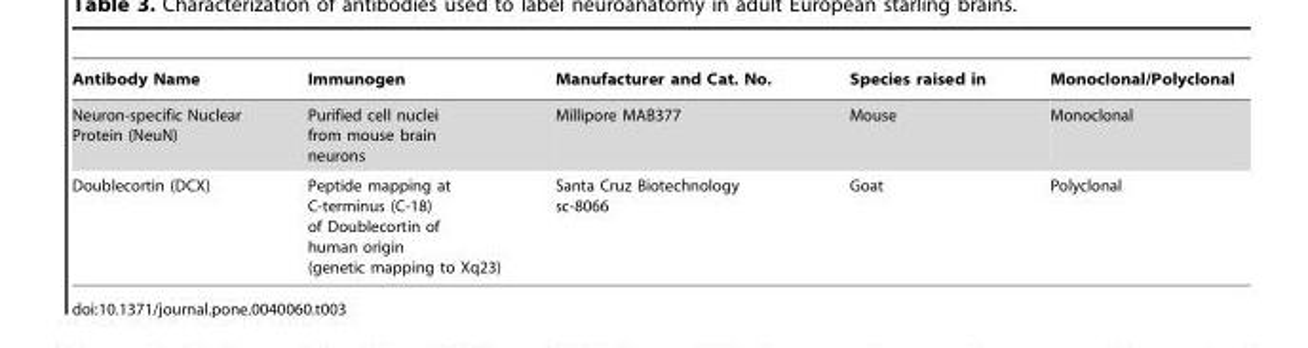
<table><thead><tr><td>Antibody Name</td><td>Immunogen</td><td>Manufacturer and Cat. No.</td><td>Species raised in</td><td>Monoclonal/Polyclonal</td></tr></thead><tbody><tr><td>Neuron-specific Nuclear Protein (NeuN)</td><td>Purified cell nuclei from mouse brain neurons</td><td>Millipore MAB377</td><td>Mouse</td><td>Monoclonal</td></tr><tr><td>Doublecortin (DCX)</td><td>Peptide mapping at C-terminus (C-18) of Doublecortin of human origin (genetic mapping to Xq23)</td><td>Santa Cruz Biotechnology sc-8066</td><td>Goat</td><td>Polyclonal</td></tr></tbody></table>